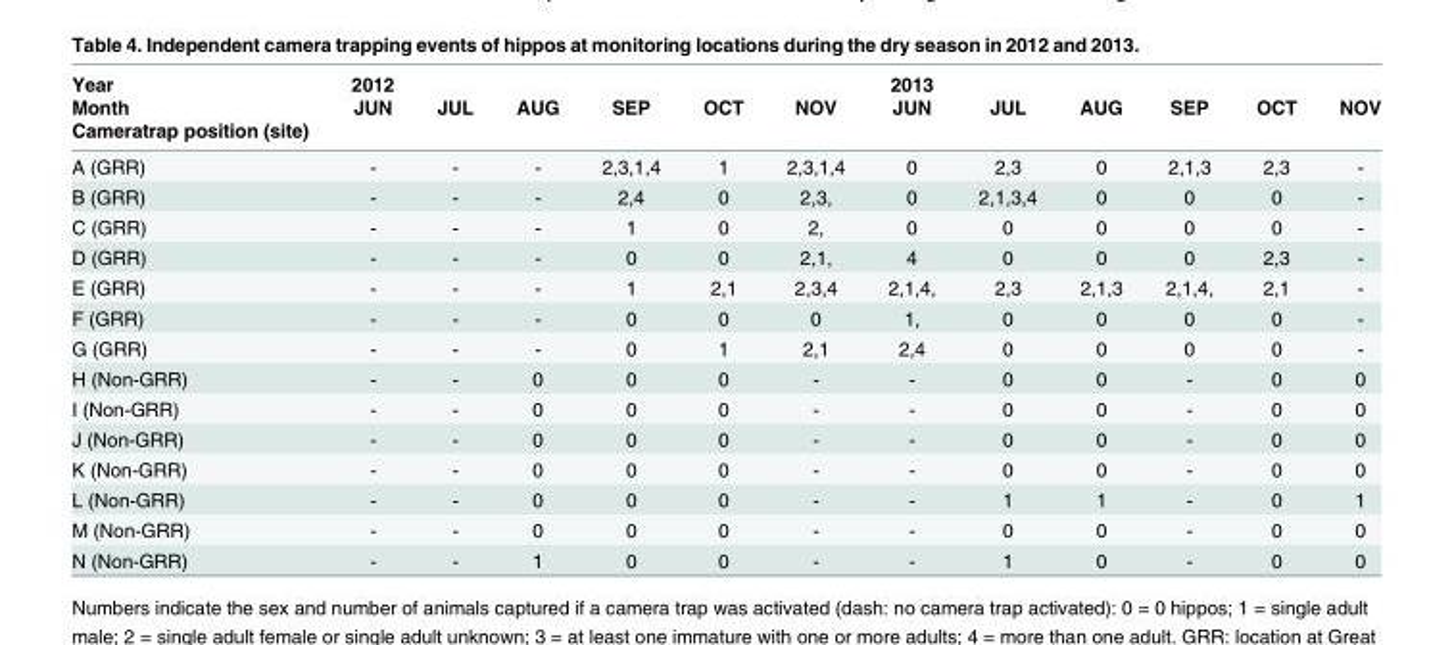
<table><thead><tr><td rowspan="3">Year Month Cameratrap position (site)</td><td rowspan="3">2012 JUN</td><td rowspan="3">JUL</td><td rowspan="3">AUG</td><td rowspan="3">SEP</td><td rowspan="3">OCT</td><td rowspan="3">NOV</td><td rowspan="3">2013 JUN</td><td rowspan="3">JUL</td><td rowspan="3">AUG</td><td rowspan="3">SEP</td><td rowspan="3">OCT</td><td rowspan="3">NOV</td></tr><tr></tr><tr></tr></thead><tbody><tr><td>A (GRR)</td><td>-</td><td>-</td><td>-</td><td>2,3,1,4</td><td>1</td><td>2,3,1,4</td><td>0</td><td>2,3</td><td>0</td><td>2,1,3</td><td>2,3</td><td>-</td></tr><tr><td>B (GRR)</td><td>-</td><td>-</td><td>-</td><td>2,4</td><td>0</td><td>2,3,</td><td>0</td><td>2,1,3,4</td><td>0</td><td>0</td><td>0</td><td>-</td></tr><tr><td>C (GRR)</td><td>-</td><td>-</td><td>-</td><td>1</td><td>0</td><td>2,</td><td>0</td><td>0</td><td>0</td><td>0</td><td>0</td><td>-</td></tr><tr><td>D (GRR)</td><td>-</td><td>-</td><td>-</td><td>0</td><td>0</td><td>2,1,</td><td>4</td><td>0</td><td>0</td><td>0</td><td>2,3</td><td>-</td></tr><tr><td>E (GRR)</td><td>-</td><td>-</td><td>-</td><td>1</td><td>2,1</td><td>2,3,4</td><td>2,1,4,</td><td>2,3</td><td>2,1,3</td><td>2,1,4,</td><td>2,1</td><td>-</td></tr><tr><td>F (GRR)</td><td>-</td><td>-</td><td>-</td><td>0</td><td>0</td><td>0</td><td>1,</td><td>0</td><td>0</td><td>0</td><td>0</td><td>-</td></tr><tr><td>G (GRR)</td><td>-</td><td>-</td><td>-</td><td>0</td><td>1</td><td>2,1</td><td>2,4</td><td>0</td><td>0</td><td>0</td><td>0</td><td>-</td></tr><tr><td>H (Non-GRR)</td><td>-</td><td>-</td><td>0</td><td>0</td><td>0</td><td>-</td><td>-</td><td>0</td><td>0</td><td>-</td><td>0</td><td>0</td></tr><tr><td>I (Non-GRR)</td><td>-</td><td>-</td><td>0</td><td>0</td><td>0</td><td>-</td><td>-</td><td>0</td><td>0</td><td>-</td><td>0</td><td>0</td></tr><tr><td>J (Non-GRR)</td><td>-</td><td>-</td><td>0</td><td>0</td><td>0</td><td>-</td><td>-</td><td>0</td><td>0</td><td>-</td><td>0</td><td>0</td></tr><tr><td>K (Non-GRR)</td><td>-</td><td>-</td><td>0</td><td>0</td><td>0</td><td>-</td><td>-</td><td>0</td><td>0</td><td>-</td><td>0</td><td>0</td></tr><tr><td>L (Non-GRR)</td><td>-</td><td>-</td><td>0</td><td>0</td><td>0</td><td>-</td><td>-</td><td>1</td><td>1</td><td>-</td><td>0</td><td>1</td></tr><tr><td>M (Non-GRR)</td><td>-</td><td>-</td><td>0</td><td>0</td><td>0</td><td>-</td><td>-</td><td>0</td><td>0</td><td>-</td><td>0</td><td>0</td></tr><tr><td>N (Non-GRR)</td><td>-</td><td>-</td><td>1</td><td>0</td><td>0</td><td>-</td><td>-</td><td>1</td><td>0</td><td>-</td><td>0</td><td>0</td></tr></tbody></table>